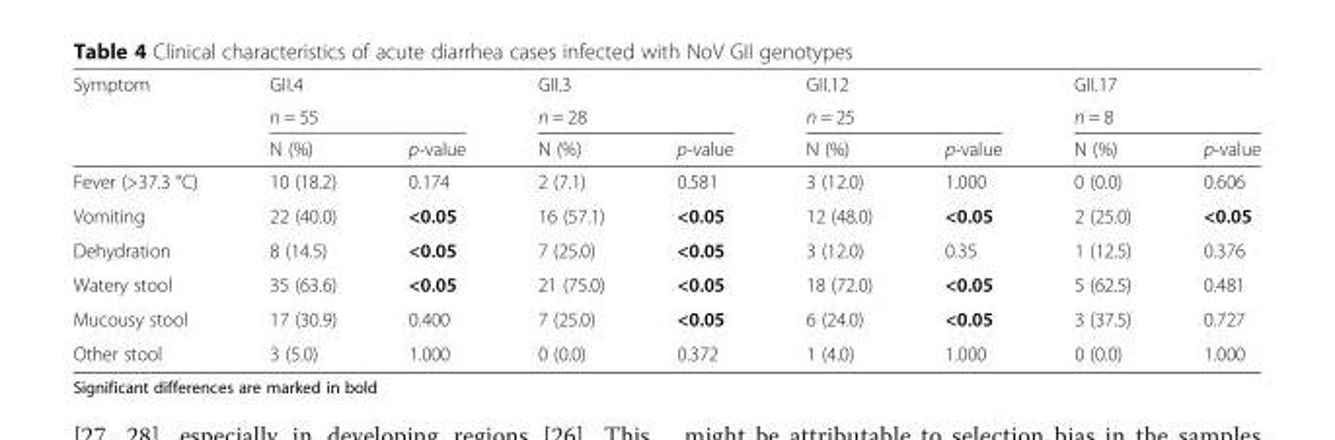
<table><thead><tr><td rowspan="3">Symptom</td><td>GII.4</td><td></td><td>GII.3</td><td></td><td>GII.12</td><td></td><td>GII.17</td><td></td></tr><tr><td colspan="2">n = 55</td><td colspan="2">n = 28</td><td colspan="2">n = 25</td><td colspan="2">n = 8</td></tr><tr><td>N (%)</td><td>p-value</td><td>N (%)</td><td>p-value</td><td>N (%)</td><td>p-value</td><td>N (%)</td><td>p-value</td></tr></thead><tbody><tr><td>Fever (&gt;37.3 °C)</td><td>10 (18.2)</td><td>0.174</td><td>2 (7.1)</td><td>0.581</td><td>3 (12.0)</td><td>1.000</td><td>0 (0.0)</td><td>0.606</td></tr><tr><td>Vomiting</td><td>22 (40.0)</td><td>&lt;0.05</td><td>16 (57.1)</td><td>&lt;0.05</td><td>12 (48.0)</td><td>&lt;0.05</td><td>2 (25.0)</td><td>&lt;0.05</td></tr><tr><td>Dehydration</td><td>8 (14.5)</td><td>&lt;0.05</td><td>7 (25.0)</td><td>&lt;0.05</td><td>3 (12.0)</td><td>0.35</td><td>1 (12.5)</td><td>0.376</td></tr><tr><td>Watery stool</td><td>35 (63.6)</td><td>&lt;0.05</td><td>21 (75.0)</td><td>&lt;0.05</td><td>18 (72.0)</td><td>&lt;0.05</td><td>5 (62.5)</td><td>0.481</td></tr><tr><td>Mucousy stool</td><td>17 (30.9)</td><td>0.400</td><td>7 (25.0)</td><td>&lt;0.05</td><td>6 (24.0)</td><td>&lt;0.05</td><td>3 (37.5)</td><td>0.727</td></tr><tr><td>Other stool</td><td>3 (5.0)</td><td>1.000</td><td>0 (0.0)</td><td>0.372</td><td>1 (4.0)</td><td>1.000</td><td>0 (0.0)</td><td>1.000</td></tr></tbody></table>